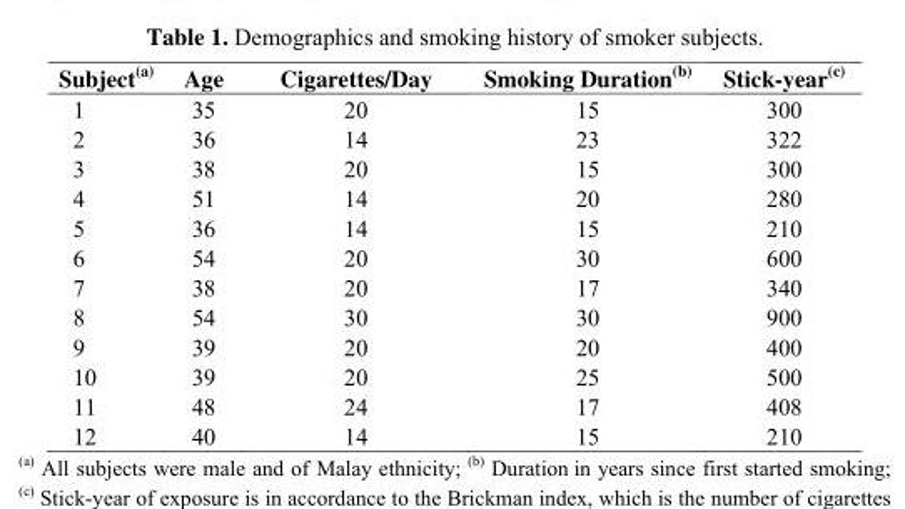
<table><thead><tr><td>Subject(a)</td><td>Age</td><td>Cigarettes/Day</td><td>Smoking Duration(b)</td><td>Stick-year(c)</td></tr></thead><tbody><tr><td>1</td><td>35</td><td>20</td><td>15</td><td>300</td></tr><tr><td>2</td><td>36</td><td>14</td><td>23</td><td>322</td></tr><tr><td>3</td><td>38</td><td>20</td><td>15</td><td>300</td></tr><tr><td>4</td><td>51</td><td>14</td><td>20</td><td>280</td></tr><tr><td>5</td><td>36</td><td>14</td><td>15</td><td>210</td></tr><tr><td>6</td><td>54</td><td>20</td><td>30</td><td>600</td></tr><tr><td>7</td><td>38</td><td>20</td><td>17</td><td>340</td></tr><tr><td>8</td><td>54</td><td>30</td><td>30</td><td>900</td></tr><tr><td>9</td><td>39</td><td>20</td><td>20</td><td>400</td></tr><tr><td>10</td><td>39</td><td>20</td><td>25</td><td>500</td></tr><tr><td>11</td><td>48</td><td>24</td><td>17</td><td>408</td></tr><tr><td>12</td><td>40</td><td>14</td><td>15</td><td>210</td></tr></tbody></table>